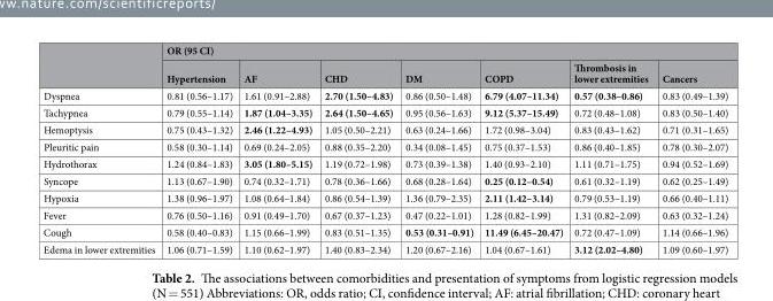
<table><thead><tr><td rowspan="2"></td><td colspan="7">OR (95 CI)</td></tr><tr><td>Hypertension</td><td>AF</td><td>CHD</td><td>DM</td><td>COPD</td><td>Thrombosis in lower extremities</td><td>Cancers</td></tr></thead><tbody><tr><td>Dyspnea</td><td>0.81 (0.56–1.17)</td><td>1.61 (0.91–2.88)</td><td>2.70 (1.50–4.83)</td><td>0.86 (0.50–1.48)</td><td>6.79 (4.07–11.34)</td><td>0.57 (0.38–0.86)</td><td>0.83 (0.49–1.39)</td></tr><tr><td>Tachypnea</td><td>0.79 (0.55–1.14)</td><td>1.87 (1.04–3.35)</td><td>2.64 (1.50–4.65)</td><td>0.95 (0.56–1.63)</td><td>9.12 (5.37–15.49)</td><td>0.72 (0.48–1.08)</td><td>0.83 (0.50–1.40)</td></tr><tr><td>Hemoptysis</td><td>0.75 (0.43–1.32)</td><td>2.46 (1.22–4.93)</td><td>1.05 (0.50–2.21)</td><td>0.63 (0.24–1.66)</td><td>1.72 (0.98–3.04)</td><td>0.83 (0.43–1.62)</td><td>0.71 (0.31–1.65)</td></tr><tr><td>Pleuritic pain</td><td>0.58 (0.30–1.14)</td><td>0.69 (0.24–2.05)</td><td>0.88 (0.35–2.20)</td><td>0.34 (0.08–1.45)</td><td>0.75 (0.37–1.53)</td><td>0.86 (0.40–1.85)</td><td>0.78 (0.30–2.07)</td></tr><tr><td>Hydrothorax</td><td>1.24 (0.84–1.83)</td><td>3.05 (1.80–5.15)</td><td>1.19 (0.72–1.98)</td><td>0.73 (0.39–1.38)</td><td>1.40 (0.93–2.10)</td><td>1.11 (0.71–1.75)</td><td>0.94 (0.52–1.69)</td></tr><tr><td>Syncope</td><td>1.13 (0.67–1.90)</td><td>0.74 (0.32–1.71)</td><td>0.78 (0.36–1.66)</td><td>0.68 (0.28–1.64)</td><td>0.25 (0.12–0.54)</td><td>0.61 (0.32–1.19)</td><td>0.62 (0.25–1.49)</td></tr><tr><td>Hypoxia</td><td>1.38 (0.96–1.97)</td><td>1.08 (0.64–1.84)</td><td>0.86 (0.54–1.39)</td><td>1.36 (0.79–2.35)</td><td>2.11 (1.42–3.14)</td><td>0.79 (0.53–1.19)</td><td>0.66 (0.40–1.11)</td></tr><tr><td>Fever</td><td>0.76 (0.50–1.16)</td><td>0.91 (0.49–1.70)</td><td>0.67 (0.37–1.23)</td><td>0.47 (0.22–1.01)</td><td>1.28 (0.82–1.99)</td><td>1.31 (0.82–2.09)</td><td>0.63 (0.32–1.24)</td></tr><tr><td>Cough</td><td>0.58 (0.40–0.83)</td><td>1.15 (0.66–1.99)</td><td>0.83 (0.51–1.35)</td><td>0.53 (0.31–0.91)</td><td>11.49 (6.45–20.47)</td><td>0.72 (0.47–1.09)</td><td>1.14 (0.66–1.96)</td></tr><tr><td>Edema in lower extremities</td><td>1.06 (0.71–1.59)</td><td>1.10 (0.62–1.97)</td><td>1.40 (0.83–2.34)</td><td>1.20 (0.67–2.16)</td><td>1.04 (0.67–1.61)</td><td>3.12 (2.02–4.80)</td><td>1.09 (0.60–1.97)</td></tr></tbody></table>